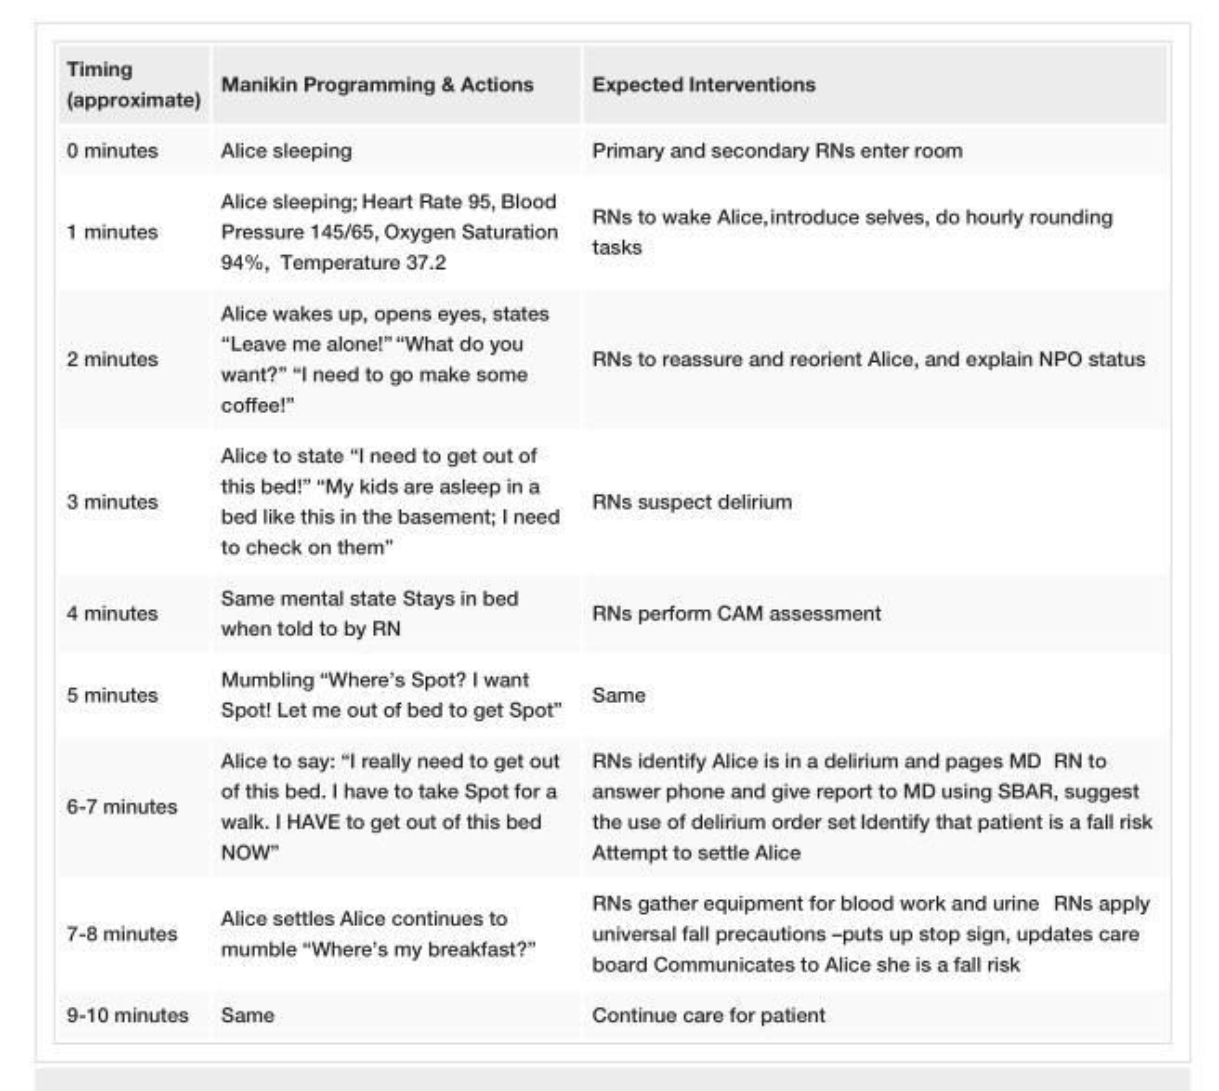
<table><tbody><tr><td>Timing (approximate)</td><td>Manikin Programming &amp; Actions</td><td>Expected Interventions</td></tr><tr><td>0 minutes</td><td>Alice sleeping</td><td>Primary and secondary RNs enter room</td></tr><tr><td>1 minutes</td><td>Alice sleeping; Heart Rate 95, Blood Pressure 145/65, Oxygen Saturation 94%, Temperature 37.2</td><td>RNs to wake Alice, introduce selves, do hourly rounding tasks</td></tr><tr><td>2 minutes</td><td>Alice wakes up, opens eyes, states “Leave me alone!” “What do you want?” “I need to go make some coffee!”</td><td>RNs to reassure and reorient Alice, and explain NPO status</td></tr><tr><td>3 minutes</td><td>Alice to state “I need to get out of this bed!” “My kids are asleep in a bed like this in the basement; I need to check on them”</td><td>RNs suspect delirium</td></tr><tr><td>4 minutes</td><td>Same mental state Stays in bed when told to by RN</td><td>RNs perform CAM assessment</td></tr><tr><td>5 minutes</td><td>Mumbling “Where’s Spot? I want Spot! Let me out of bed to get Spot”</td><td>Same</td></tr><tr><td>6-7 minutes</td><td>Alice to say: “I really need to get out of this bed. I have to take Spot for a walk. I HAVE to get out of this bed NOW”</td><td>RNs identify Alice is in a delirium and pages MD RN to answer phone and give report to MD using SBAR, suggest the use of delirium order set Identify that patient is a fall risk Attempt to settle Alice</td></tr><tr><td>7-8 minutes</td><td>Alice settles Alice continues to mumble “Where’s my breakfast?”</td><td>RNs gather equipment for blood work and urine RNs apply universal fall precautions –puts up stop sign, updates care board Communicates to Alice she is a fall risk</td></tr><tr><td>9-10 minutes</td><td>Same</td><td>Continue care for patient</td></tr></tbody></table>